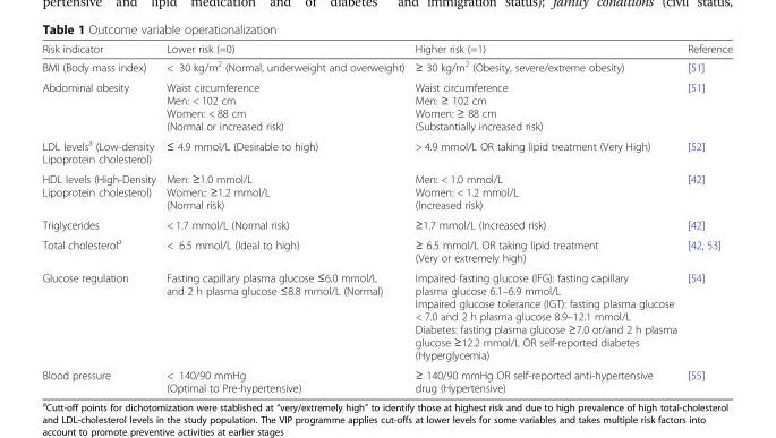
<table><thead><tr><td>Risk indicator</td><td>Lower risk (=0)</td><td>Higher risk (=1)</td><td>Reference</td></tr></thead><tbody><tr><td>BMI (Body mass index)</td><td>&lt; 30 kg/m<sup>2</sup> (Normal, underweight and overweight)</td><td>≥ 30 kg/m<sup>2</sup> (Obesity, severe/extreme obesity)</td><td>[51]</td></tr><tr><td>Abdominal obesity</td><td>Waist circumference Men: &lt; 102 cm Women: &lt; 88 cm (Normal or increased risk)</td><td>Waist circumference Men: ≥ 102 cm Women: ≥ 88 cm (Substantially increased risk)</td><td>[51]</td></tr><tr><td>LDL levels<sup>a</sup> (Low-density Lipoprotein cholesterol)</td><td>≤ 4.9 mmol/L (Desirable to high)</td><td>&gt; 4.9 mmol/L OR taking lipid treatment (Very High)</td><td>[52]</td></tr><tr><td>HDL levels (High-Density Lipoprotein cholesterol)</td><td>Men: ≥1.0 mmol/L Women:: ≥1.2 mmol/L (Normal risk)</td><td>Men: &lt; 1.0 mmol/L Women: &lt; 1.2 mmol/L (Increased risk)</td><td>[42]</td></tr><tr><td>Triglycerides</td><td>&lt; 1.7 mmol/L (Normal risk)</td><td>≥1.7 mmol/L (Increased risk)</td><td>[42]</td></tr><tr><td>Total cholesterol<sup>a</sup></td><td>&lt; 6.5 mmol/L (Ideal to high)</td><td>≥ 6.5 mmol/L OR taking lipid treatment (Very or extremely high)</td><td>[42, 53]</td></tr><tr><td>Glucose regulation</td><td>Fasting capillary plasma glucose ≤6.0 mmol/L and 2 h plasma glucose ≤8.8 mmol/L (Normal)</td><td>Impaired fasting glucose (IFG): fasting capillary plasma glucose 6.1–6.9 mmol/L Impaired glucose tolerance (IGT): fasting plasma glucose &lt; 7.0 and 2 h plasma glucose 8.9–12.1 mmol/L Diabetes: fasting plasma glucose ≥7.0 or/and 2 h plasma glucose ≥12.2 mmol/L OR self-reported diabetes (Hyperglycemia)</td><td>[54]</td></tr><tr><td>Blood pressure</td><td>&lt; 140/90 mmHg (Optimal to Pre-hypertensive)</td><td>≥ 140/90 mmHg OR self-reported anti-hypertensive drug (Hypertensive)</td><td>[55]</td></tr></tbody></table>